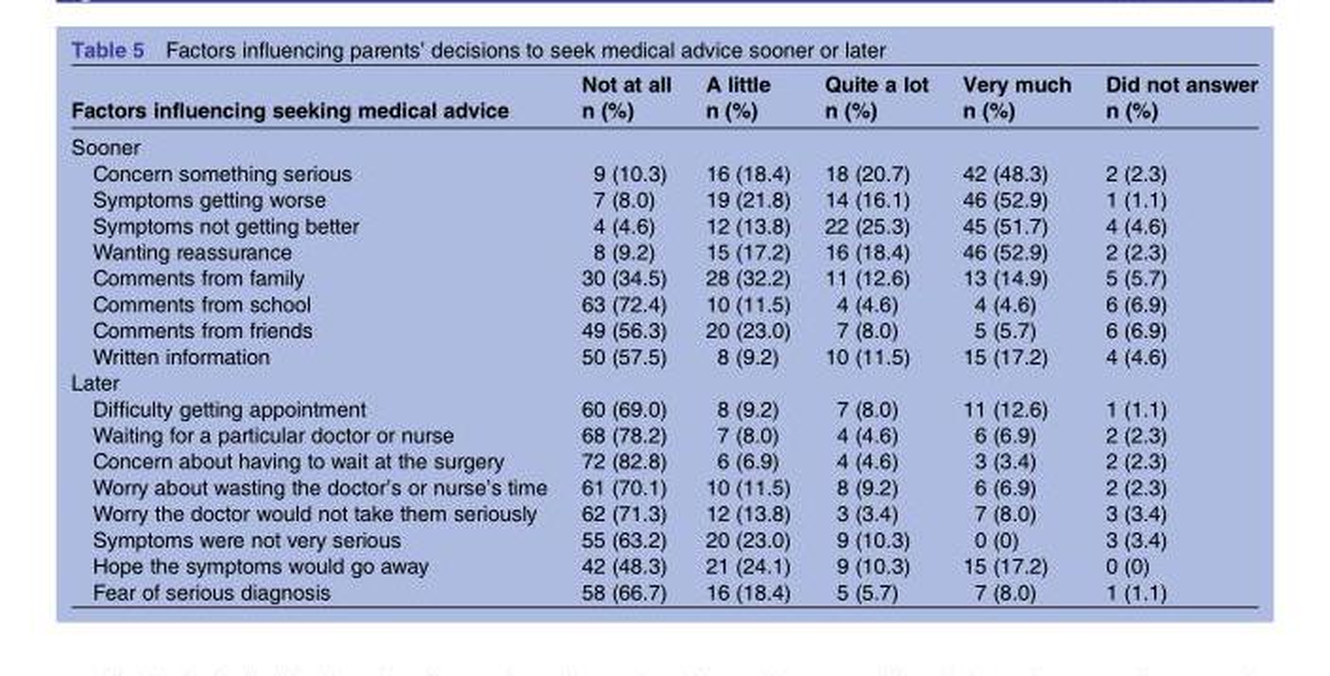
<table><thead><tr><td>Factors influencing seeking medical advice</td><td>Not at all n (%)</td><td>A little n (%)</td><td>Quite a lot n (%)</td><td>Very much n (%)</td><td>Did not answer n (%)</td></tr></thead><tbody><tr><td colspan="6">Sooner</td></tr><tr><td>Concern something serious</td><td>9 (10.3)</td><td>16 (18.4)</td><td>18 (20.7)</td><td>42 (48.3)</td><td>2 (2.3)</td></tr><tr><td>Symptoms getting worse</td><td>7 (8.0)</td><td>19 (21.8)</td><td>14 (16.1)</td><td>46 (52.9)</td><td>1 (1.1)</td></tr><tr><td>Symptoms not getting better</td><td>4 (4.6)</td><td>12 (13.8)</td><td>22 (25.3)</td><td>45 (51.7)</td><td>4 (4.6)</td></tr><tr><td>Wanting reassurance</td><td>8 (9.2)</td><td>15 (17.2)</td><td>16 (18.4)</td><td>46 (52.9)</td><td>2 (2.3)</td></tr><tr><td>Comments from family</td><td>30 (34.5)</td><td>28 (32.2)</td><td>11 (12.6)</td><td>13 (14.9)</td><td>5 (5.7)</td></tr><tr><td>Comments from school</td><td>63 (72.4)</td><td>10 (11.5)</td><td>4 (4.6)</td><td>4 (4.6)</td><td>6 (6.9)</td></tr><tr><td>Comments from friends</td><td>49 (56.3)</td><td>20 (23.0)</td><td>7 (8.0)</td><td>5 (5.7)</td><td>6 (6.9)</td></tr><tr><td>Written information</td><td>50 (57.5)</td><td>8 (9.2)</td><td>10 (11.5)</td><td>15 (17.2)</td><td>4 (4.6)</td></tr><tr><td colspan="6">Later</td></tr><tr><td>Difficulty getting appointment</td><td>60 (69.0)</td><td>8 (9.2)</td><td>7 (8.0)</td><td>11 (12.6)</td><td>1 (1.1)</td></tr><tr><td>Waiting for a particular doctor or nurse</td><td>68 (78.2)</td><td>7 (8.0)</td><td>4 (4.6)</td><td>6 (6.9)</td><td>2 (2.3)</td></tr><tr><td>Concern about having to wait at the surgery</td><td>72 (82.8)</td><td>6 (6.9)</td><td>4 (4.6)</td><td>3 (3.4)</td><td>2 (2.3)</td></tr><tr><td>Worry about wasting the doctor’s or nurse’s time</td><td>61 (70.1)</td><td>10 (11.5)</td><td>8 (9.2)</td><td>6 (6.9)</td><td>2 (2.3)</td></tr><tr><td>Worry the doctor would not take them seriously</td><td>62 (71.3)</td><td>12 (13.8)</td><td>3 (3.4)</td><td>7 (8.0)</td><td>3 (3.4)</td></tr><tr><td>Symptoms were not very serious</td><td>55 (63.2)</td><td>20 (23.0)</td><td>9 (10.3)</td><td>0 (0)</td><td>3 (3.4)</td></tr><tr><td>Hope the symptoms would go away</td><td>42 (48.3)</td><td>21 (24.1)</td><td>9 (10.3)</td><td>15 (17.2)</td><td>0 (0)</td></tr><tr><td>Fear of serious diagnosis</td><td>58 (66.7)</td><td>16 (18.4)</td><td>5 (5.7)</td><td>7 (8.0)</td><td>1 (1.1)</td></tr></tbody></table>